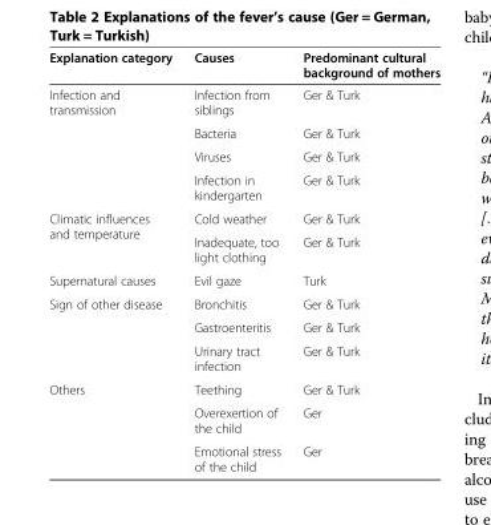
<table><thead><tr><td>Explanation category</td><td>Causes</td><td>Predominant cultural background of mothers</td></tr></thead><tbody><tr><td rowspan="4">Infection and transmission</td><td>Infection from siblings</td><td>Ger &amp; Turk</td></tr><tr><td>Bacteria</td><td>Ger &amp; Turk</td></tr><tr><td>Viruses</td><td>Ger &amp; Turk</td></tr><tr><td>Infection in kindergarten</td><td>Ger &amp; Turk</td></tr><tr><td rowspan="2">Climatic influences and temperature</td><td>Cold weather</td><td>Ger &amp; Turk</td></tr><tr><td>Inadequate, too light clothing</td><td>Ger &amp; Turk</td></tr><tr><td>Supernatural causes</td><td>Evil gaze</td><td>Turk</td></tr><tr><td rowspan="3">Sign of other disease</td><td>Bronchitis</td><td>Ger &amp; Turk</td></tr><tr><td>Gastroenteritis</td><td>Ger &amp; Turk</td></tr><tr><td>Urinary tract infection</td><td>Ger &amp; Turk</td></tr><tr><td rowspan="3">Others</td><td>Teething</td><td>Ger &amp; Turk</td></tr><tr><td>Overexertion of the child</td><td>Ger</td></tr><tr><td>Emotional stress of the child</td><td>Ger</td></tr></tbody></table>